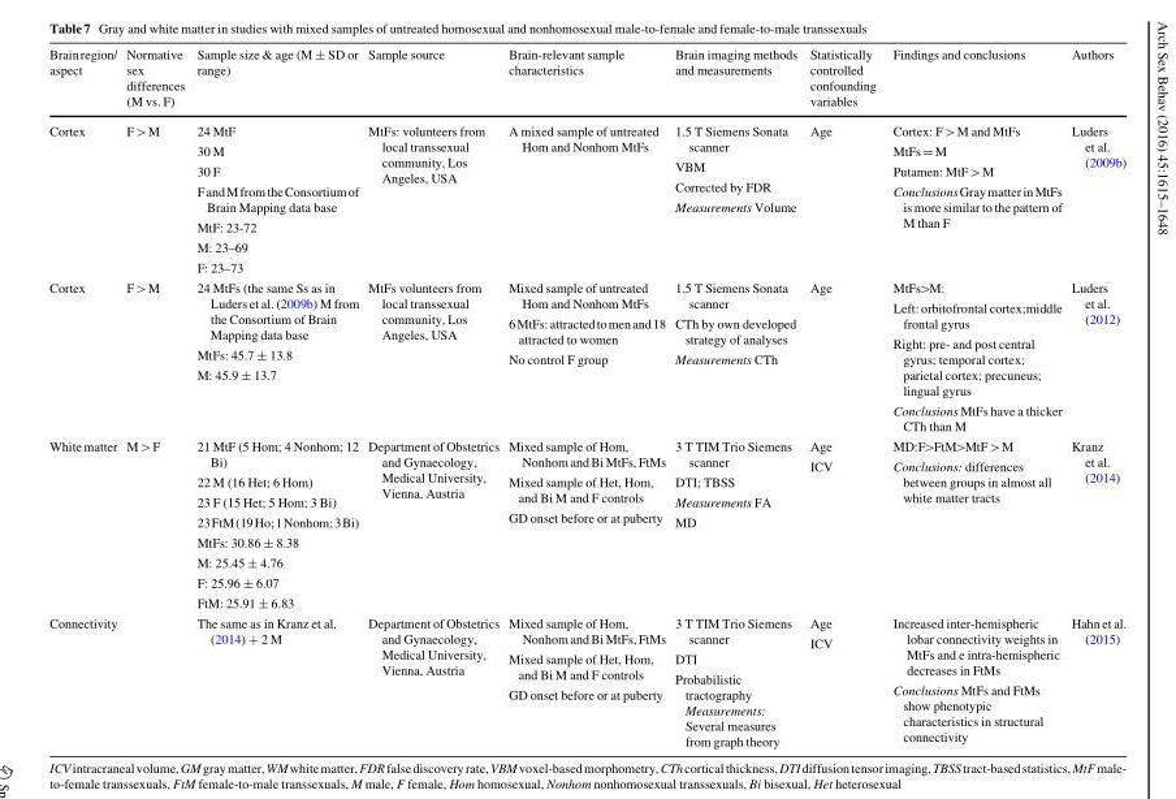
<table><thead><tr><td>Brainregion/ aspect</td><td>Normative sex differences (M vs. F)</td><td>Sample size &amp; age (M ± SD or range)</td><td>Sample source</td><td>Brain-relevant sample characteristics</td><td>Brain imaging methods and measurements</td><td>Statistically controlled confounding variables</td><td>Findings and conclusions</td><td>Authors</td></tr></thead><tbody><tr><td>Cortex</td><td>F&gt;M</td><td>24 MtF 30 M 30 F FandMfromtheConsortiumof Brain Mapping data base MtF: 23-72 M: 23–69 F: 23–73</td><td>MtFs: volunteers from local transsexual community, Los Angeles, USA</td><td>A mixed sample of untreated Hom and Nonhom MtFs</td><td>1.5 T Siemens Sonata scanner VBM Corrected by FDR Measurements Volume</td><td>Age</td><td>Cortex: F&gt;M and MtFs MtFs = M Putamen: MtF&gt;M ConclusionsGraymatterinMtFs is more similar to the pattern of M than F</td><td>Luders et al. (2009b)</td></tr><tr><td>Cortex</td><td>F&gt;M</td><td>24 MtFs (the same Ss as in Luders et al. (2009b) M from the Consortium of Brain Mapping data base MtFs: 45.7 ± 13.8 M: 45.9 ± 13.7</td><td>MtFs volunteers from local transsexual community, Los Angeles, USA</td><td>Mixed sample of untreated Hom and Nonhom MtFs 6MtFs:attractedtomenand18 attracted to women No control F group</td><td>1.5 T Siemens Sonata scanner CTh by own developed strategy of analyses Measurements CTh</td><td>Age</td><td>MtFs&gt;M: Left: orbitofrontal cortex;middle frontal gyrus Right: pre- and post central gyrus; temporal cortex; parietal cortex; precuneus; lingual gyrus Conclusions MtFs have a thicker CTh than M</td><td>Luders et al. (2012)</td></tr><tr><td>White matter</td><td>M&gt;F</td><td>21 MtF (5 Hom; 4 Nonhom; 12 Bi) 22 M (16 Het; 6 Hom) 23 F (15 Het; 5 Hom; 3 Bi) 23FtM(19Ho;1Nonhom;3Bi) MtFs: 30.86 ± 8.38 M: 25.45 ± 4.76 F: 25.96 ± 6.07 FtM: 25.91 ± 6.83</td><td>Department of Obstetrics and Gynaecology, Medical University, Vienna, Austria</td><td>Mixed sample of Hom, Nonhom and Bi MtFs, FtMs Mixed sample of Het, Hom, and Bi M and F controls GD onset before or at puberty</td><td>3 T TIM Trio Siemens scanner DTI; TBSS Measurements FA MD</td><td>Age ICV</td><td>MD:F&gt;FtM&gt;MtF&gt;M Conclusions: differences between groups in almost all white matter tracts</td><td>Kranz et al. (2014)</td></tr><tr><td>Connectivity</td><td></td><td>The same as in Kranz et al. (2014) + 2 M</td><td>Department of Obstetrics and Gynaecology, Medical University, Vienna, Austria</td><td>Mixed sample of Hom, Nonhom and Bi MtFs, FtMs Mixed sample of Het, Hom, and Bi M and F controls GD onset before or at puberty</td><td>3 T TIM Trio Siemens scanner DTI Probabilistic tractography Measurements: Several measures from graph theory</td><td>Age ICV</td><td>Increased inter-hemispheric lobar connectivity weights in MtFs and e intra-hemispheric decreases in FtMs Conclusions MtFs and FtMs show phenotypic characteristics in structural connectivity</td><td>Hahn et al. (2015)</td></tr></tbody></table>